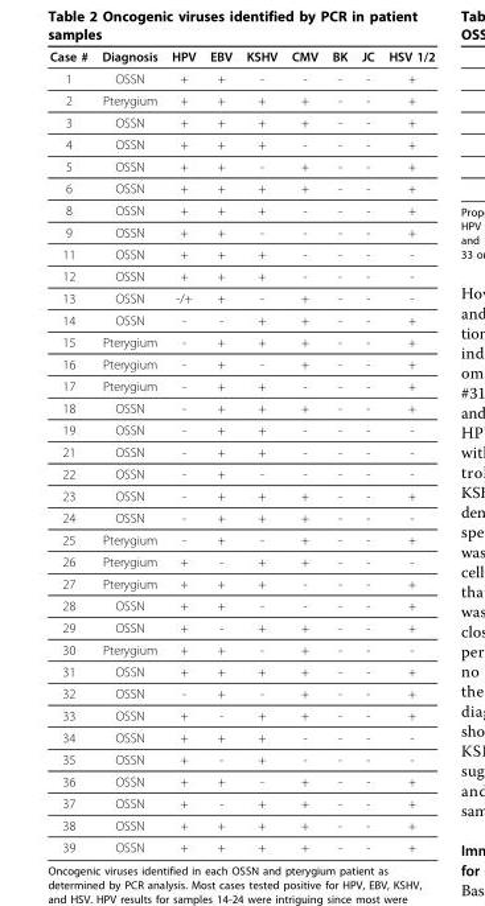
<table><thead><tr><td>Case #</td><td>Diagnosis</td><td>HPV</td><td>EBV</td><td>KSHV</td><td>CMV</td><td>BK</td><td>JC</td><td>HSV 1/2</td></tr></thead><tbody><tr><td>1</td><td>OSSN</td><td>+</td><td>+</td><td>-</td><td>-</td><td>-</td><td>-</td><td>+</td></tr><tr><td>2</td><td>Pterygium</td><td>+</td><td>+</td><td>+</td><td>+</td><td>-</td><td>-</td><td>+</td></tr><tr><td>3</td><td>OSSN</td><td>+</td><td>+</td><td>+</td><td>+</td><td>-</td><td>-</td><td>+</td></tr><tr><td>4</td><td>OSSN</td><td>+</td><td>+</td><td>+</td><td>-</td><td>-</td><td>-</td><td>+</td></tr><tr><td>5</td><td>OSSN</td><td>+</td><td>+</td><td>-</td><td>+</td><td>-</td><td>-</td><td>+</td></tr><tr><td>6</td><td>OSSN</td><td>+</td><td>+</td><td>+</td><td>+</td><td>-</td><td>-</td><td>+</td></tr><tr><td>8</td><td>OSSN</td><td>+</td><td>+</td><td>+</td><td>-</td><td>-</td><td>-</td><td>+</td></tr><tr><td>9</td><td>OSSN</td><td>+</td><td>+</td><td>-</td><td>-</td><td>-</td><td>-</td><td>+</td></tr><tr><td>11</td><td>OSSN</td><td>+</td><td>+</td><td>+</td><td>-</td><td>-</td><td>-</td><td>-</td></tr><tr><td>12</td><td>OSSN</td><td>+</td><td>+</td><td>+</td><td>-</td><td>-</td><td>-</td><td>-</td></tr><tr><td>13</td><td>OSSN</td><td>-/+</td><td>+</td><td>-</td><td>+</td><td>-</td><td>-</td><td>-</td></tr><tr><td>14</td><td>OSSN</td><td>-</td><td>-</td><td>+</td><td>+</td><td>-</td><td>-</td><td>+</td></tr><tr><td>15</td><td>Pterygium</td><td>-</td><td>+</td><td>+</td><td>+</td><td>-</td><td>-</td><td>+</td></tr><tr><td>16</td><td>Pterygium</td><td>-</td><td>+</td><td>-</td><td>+</td><td>-</td><td>-</td><td>+</td></tr><tr><td>17</td><td>Pterygium</td><td>-</td><td>+</td><td>+</td><td>-</td><td>-</td><td>-</td><td>+</td></tr><tr><td>18</td><td>OSSN</td><td>-</td><td>+</td><td>+</td><td>+</td><td>-</td><td>-</td><td>+</td></tr><tr><td>19</td><td>OSSN</td><td>-</td><td>+</td><td>+</td><td>-</td><td>-</td><td>-</td><td>-</td></tr><tr><td>21</td><td>OSSN</td><td>-</td><td>+</td><td>+</td><td>-</td><td>-</td><td>-</td><td>-</td></tr><tr><td>22</td><td>OSSN</td><td>-</td><td>+</td><td>-</td><td>-</td><td>-</td><td>-</td><td>-</td></tr><tr><td>23</td><td>OSSN</td><td>-</td><td>+</td><td>+</td><td>+</td><td>-</td><td>-</td><td>+</td></tr><tr><td>24</td><td>OSSN</td><td>-</td><td>+</td><td>+</td><td>+</td><td>-</td><td>-</td><td>-</td></tr><tr><td>25</td><td>Pterygium</td><td>-</td><td>+</td><td>-</td><td>+</td><td>-</td><td>-</td><td>+</td></tr><tr><td>26</td><td>Pterygium</td><td>+</td><td>-</td><td>+</td><td>+</td><td>-</td><td>-</td><td>-</td></tr><tr><td>27</td><td>Pterygium</td><td>+</td><td>+</td><td>+</td><td>-</td><td>-</td><td>-</td><td>+</td></tr><tr><td>28</td><td>OSSN</td><td>+</td><td>+</td><td>-</td><td>-</td><td>-</td><td>-</td><td>+</td></tr><tr><td>29</td><td>OSSN</td><td>+</td><td>-</td><td>+</td><td>+</td><td>-</td><td>-</td><td>+</td></tr><tr><td>30</td><td>Pterygium</td><td>+</td><td>+</td><td>-</td><td>+</td><td>-</td><td>-</td><td>-</td></tr><tr><td>31</td><td>OSSN</td><td>+</td><td>+</td><td>+</td><td>+</td><td>-</td><td>-</td><td>+</td></tr><tr><td>32</td><td>OSSN</td><td>-</td><td>+</td><td>-</td><td>+</td><td>-</td><td>-</td><td>+</td></tr><tr><td>33</td><td>OSSN</td><td>+</td><td>-</td><td>+</td><td>+</td><td>-</td><td>-</td><td>+</td></tr><tr><td>34</td><td>OSSN</td><td>+</td><td>+</td><td>+</td><td>-</td><td>-</td><td>-</td><td>-</td></tr><tr><td>35</td><td>OSSN</td><td>+</td><td>-</td><td>+</td><td>-</td><td>-</td><td>-</td><td>-</td></tr><tr><td>36</td><td>OSSN</td><td>+</td><td>+</td><td>-</td><td>+</td><td>-</td><td>-</td><td>+</td></tr><tr><td>37</td><td>OSSN</td><td>+</td><td>-</td><td>+</td><td>+</td><td>-</td><td>-</td><td>+</td></tr><tr><td>38</td><td>OSSN</td><td>+</td><td>+</td><td>+</td><td>+</td><td>-</td><td>-</td><td>+</td></tr><tr><td>39</td><td>OSSN</td><td>+</td><td>+</td><td>+</td><td>+</td><td>-</td><td>-</td><td>+</td></tr></tbody></table>